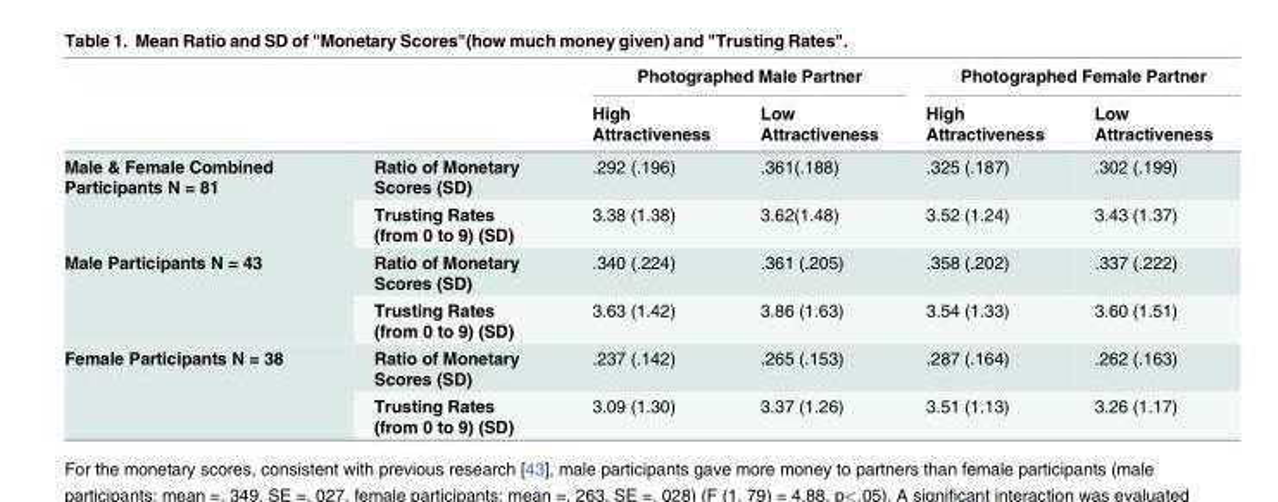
<table><thead><tr><td rowspan="2"></td><td rowspan="2"></td><td colspan="2">Photographed Male Partner</td><td colspan="2">Photographed Female Partner</td></tr><tr><td>High Attractiveness</td><td>Low Attractiveness</td><td>High Attractiveness</td><td>Low Attractiveness</td></tr></thead><tbody><tr><td rowspan="2">Male &amp; Female Combined Participants N = 81</td><td>Ratio of Monetary Scores (SD)</td><td>.292 (.196)</td><td>.361(.188)</td><td>.325 (.187)</td><td>.302 (.199)</td></tr><tr><td>Trusting Rates (from 0 to 9) (SD)</td><td>3.38 (1.38)</td><td>3.62(1.48)</td><td>3.52 (1.24)</td><td>3.43 (1.37)</td></tr><tr><td rowspan="2">Male Participants N = 43</td><td>Ratio of Monetary Scores (SD)</td><td>.340 (.224)</td><td>.361 (.205)</td><td>.358 (.202)</td><td>.337 (.222)</td></tr><tr><td>Trusting Rates (from 0 to 9) (SD)</td><td>3.63 (1.42)</td><td>3.86 (1.63)</td><td>3.54 (1.33)</td><td>3.60 (1.51)</td></tr><tr><td rowspan="2">Female Participants N = 38</td><td>Ratio of Monetary Scores (SD)</td><td>.237 (.142)</td><td>.265 (.153)</td><td>.287 (.164)</td><td>.262 (.163)</td></tr><tr><td>Trusting Rates (from 0 to 9) (SD)</td><td>3.09 (1.30)</td><td>3.37 (1.26)</td><td>3.51 (1.13)</td><td>3.26 (1.17)</td></tr></tbody></table>